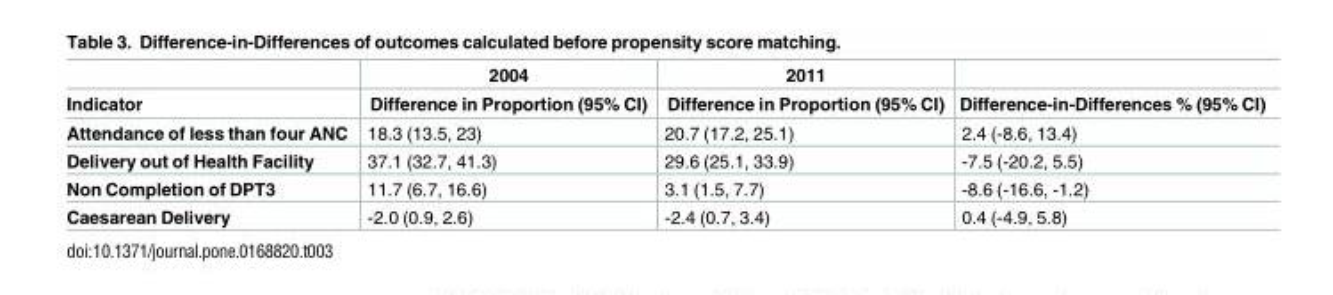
<table><thead><tr><td rowspan="2">Indicator</td><td rowspan="2">2004 Difference in Proportion (95% CI)</td><td rowspan="2">2011 Difference in Proportion (95% CI)</td><td rowspan="2">Difference-in-Differences % (95% CI)</td></tr><tr></tr></thead><tbody><tr><td>Attendance of less than four ANC</td><td>18.3 (13.5, 23)</td><td>20.7 (17.2, 25.1)</td><td>2.4 (-8.6, 13.4)</td></tr><tr><td>Delivery out of Health Facility</td><td>37.1 (32.7, 41.3)</td><td>29.6 (25.1, 33.9)</td><td>-7.5 (-20.2, 5.5)</td></tr><tr><td>Non Completion of DPT3</td><td>11.7 (6.7, 16.6)</td><td>3.1 (1.5, 7.7)</td><td>-8.6 (-16.6, -1.2)</td></tr><tr><td>Caesarean Delivery</td><td>-2.0 (0.9, 2.6)</td><td>-2.4 (0.7, 3.4)</td><td>0.4 (-4.9, 5.8)</td></tr></tbody></table>